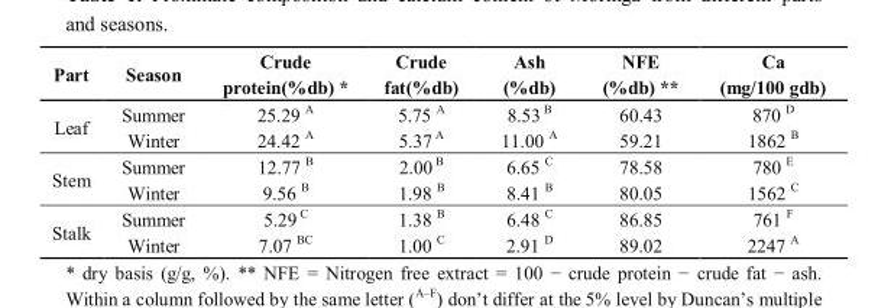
<table><thead><tr><td>Part</td><td>Season</td><td>Crude protein(%db) *</td><td>Crude fat(%db)</td><td>Ash (%db)</td><td>NFE (%db) **</td><td>Ca (mg/100 gdb)</td></tr></thead><tbody><tr><td rowspan="2">Leaf</td><td>Summer</td><td>25.29 <sup>A</sup></td><td>5.75 <sup>A</sup></td><td>8.53 <sup>B</sup></td><td>60.43</td><td>870 <sup>D</sup></td></tr><tr><td>Winter</td><td>24.42 <sup>A</sup></td><td>5.37 <sup>A</sup></td><td>11.00 <sup>A</sup></td><td>59.21</td><td>1862 <sup>B</sup></td></tr><tr><td rowspan="2">Stem</td><td>Summer</td><td>12.77 <sup>B</sup></td><td>2.00 <sup>B</sup></td><td>6.65 <sup>C</sup></td><td>78.58</td><td>780 <sup>E</sup></td></tr><tr><td>Winter</td><td>9.56 <sup>B</sup></td><td>1.98 <sup>B</sup></td><td>8.41 <sup>B</sup></td><td>80.05</td><td>1562 <sup>C</sup></td></tr><tr><td rowspan="2">Stalk</td><td>Summer</td><td>5.29 <sup>C</sup></td><td>1.38 <sup>B</sup></td><td>6.48 <sup>C</sup></td><td>86.85</td><td>761 <sup>F</sup></td></tr><tr><td>Winter</td><td>7.07 <sup>BC</sup></td><td>1.00 <sup>C</sup></td><td>2.91 <sup>D</sup></td><td>89.02</td><td>2247 <sup>A</sup></td></tr></tbody></table>